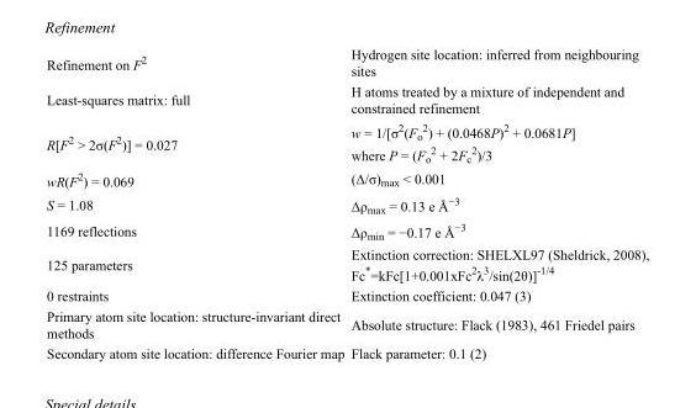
<table><tbody><tr><td>Refinement on F<sup>2</sup></td><td>Hydrogen site location: inferred from neighbouring sites</td></tr><tr><td>Least-squares matrix: full</td><td>H atoms treated by a mixture of independent and constrained refinement</td></tr><tr><td>R[F<sup>2</sup> &gt; 2σ(F<sup>2</sup>)] = 0.027</td><td>w = 1/[σ<sup>2</sup>(F<sub>o</sub> <sup>2</sup>) + (0.0468P)<sup>2</sup> + 0.0681P] where P = (F<sub>o</sub> <sup>2</sup> + 2F<sub>c</sub> <sup>2</sup>)/3</td></tr><tr><td>wR(F<sup>2</sup>) = 0.069</td><td>(Δ/σ)<sub>max</sub> &lt; 0.001</td></tr><tr><td>S = 1.08</td><td>Δρ<sub>max</sub> = 0.13 e Å<sup>−3</sup></td></tr><tr><td>1169 reflections</td><td>Δρ<sub>min</sub> = −0.17 e Å<sup>−3</sup></td></tr><tr><td>125 parameters</td><td>Extinction correction: SHELXL97 (Sheldrick, 2008), Fc*=kFc[1+0.001xFc<sup>2</sup>λ<sup>3</sup>/sin(2θ)]<sup>-1/4</sup></td></tr><tr><td>0 restraints</td><td>Extinction coefficient: 0.047 (3)</td></tr><tr><td>Primary atom site location: structure-invariant direct methods</td><td>Absolute structure: Flack (1983), 461 Friedel pairs</td></tr><tr><td>Secondary atom site location: difference Fourier map</td><td>Flack parameter: 0.1 (2)</td></tr></tbody></table>